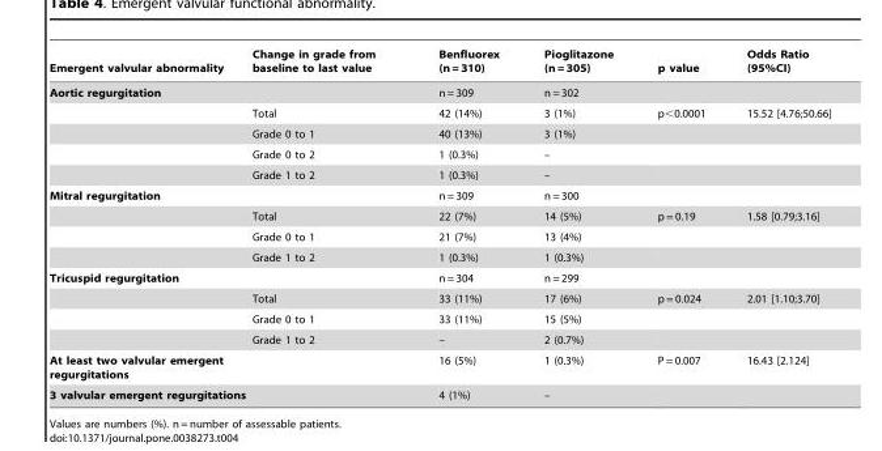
<table><thead><tr><td>Emergent valvular abnormality</td><td>Change in grade from baseline to last value</td><td>Benfluorex (n = 310)</td><td>Pioglitazone (n = 305)</td><td>p value</td><td>Odds Ratio (95%CI)</td></tr></thead><tbody><tr><td rowspan="5">Aortic regurgitation</td><td></td><td>n = 309</td><td colspan="3">n = 302</td></tr><tr><td>Total</td><td>42 (14%)</td><td>3 (1%)</td><td>p&lt;0.0001</td><td>15.52 [4.76;50.66]</td></tr><tr><td>Grade 0 to 1</td><td>40 (13%)</td><td>3 (1%)</td><td></td><td></td></tr><tr><td>Grade 0 to 2</td><td>1 (0.3%)</td><td>–</td><td></td><td></td></tr><tr><td>Grade 1 to 2</td><td>1 (0.3%)</td><td>–</td><td></td><td></td></tr><tr><td rowspan="4">Mitral regurgitation</td><td></td><td>n = 309</td><td>n = 300</td><td></td><td></td></tr><tr><td>Total</td><td>22 (7%)</td><td>14 (5%)</td><td>p = 0.19</td><td>1.58 [0.79;3.16]</td></tr><tr><td>Grade 0 to 1</td><td>21 (7%)</td><td>13 (4%)</td><td></td><td></td></tr><tr><td>Grade 1 to 2</td><td>1 (0.3%)</td><td>1 (0.3%)</td><td></td><td></td></tr><tr><td rowspan="4">Tricuspid regurgitation</td><td></td><td>n = 304</td><td>n = 299</td><td></td><td></td></tr><tr><td>Total</td><td>33 (11%)</td><td>17 (6%)</td><td>p = 0.024</td><td>2.01 [1.10;3.70]</td></tr><tr><td>Grade 0 to 1</td><td>33 (11%)</td><td>15 (5%)</td><td></td><td></td></tr><tr><td>Grade 1 to 2</td><td>–</td><td>2 (0.7%)</td><td></td><td></td></tr><tr><td>At least two valvular emergent regurgitations</td><td></td><td>16 (5%)</td><td>1 (0.3%)</td><td>P = 0.007</td><td>16.43 [2.124]</td></tr><tr><td>3 valvular emergent regurgitations</td><td></td><td>4 (1%)</td><td>–</td><td></td><td></td></tr></tbody></table>